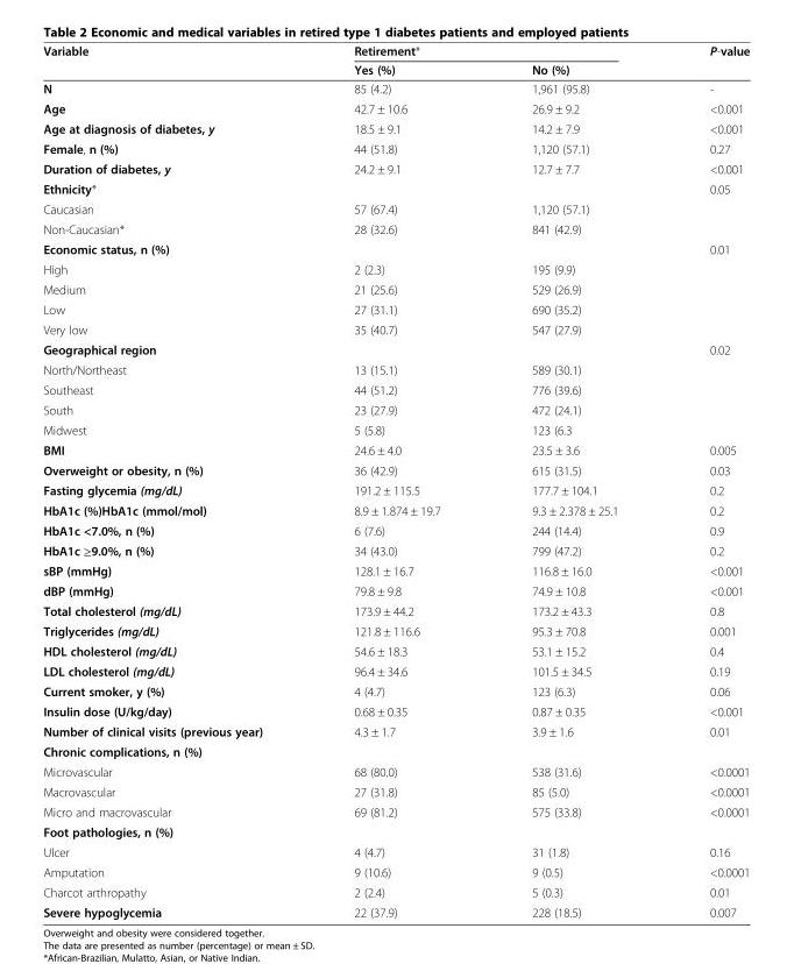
<table><thead><tr><td rowspan="2">Variable</td><td colspan="2">Retirement*</td><td rowspan="2">P-value</td></tr><tr><td>Yes (%)</td><td>No (%)</td></tr></thead><tbody><tr><td>N</td><td>85 (4.2)</td><td>1,961 (95.8)</td><td>-</td></tr><tr><td>Age</td><td>42.7 ± 10.6</td><td>26.9 ± 9.2</td><td>&lt;0.001</td></tr><tr><td>Age at diagnosis of diabetes, y</td><td>18.5 ± 9.1</td><td>14.2 ± 7.9</td><td>&lt;0.001</td></tr><tr><td>Female, n (%)</td><td>44 (51.8)</td><td>1,120 (57.1)</td><td>0.27</td></tr><tr><td>Duration of diabetes, y</td><td>24.2 ± 9.1</td><td>12.7 ± 7.7</td><td>&lt;0.001</td></tr><tr><td>Ethnicity*</td><td></td><td></td><td>0.05</td></tr><tr><td>Caucasian</td><td>57 (67.4)</td><td>1,120 (57.1)</td><td></td></tr><tr><td>Non-Caucasian*</td><td>28 (32.6)</td><td>841 (42.9)</td><td></td></tr><tr><td>Economic status, n (%)</td><td></td><td></td><td>0.01</td></tr><tr><td>High</td><td>2 (2.3)</td><td>195 (9.9)</td><td></td></tr><tr><td>Medium</td><td>21 (25.6)</td><td>529 (26.9)</td><td></td></tr><tr><td>Low</td><td>27 (31.1)</td><td>690 (35.2)</td><td></td></tr><tr><td>Very low</td><td>35 (40.7)</td><td>547 (27.9)</td><td></td></tr><tr><td>Geographical region</td><td></td><td></td><td>0.02</td></tr><tr><td>North/Northeast</td><td>13 (15.1)</td><td>589 (30.1)</td><td></td></tr><tr><td>Southeast</td><td>44 (51.2)</td><td>776 (39.6)</td><td></td></tr><tr><td>South</td><td>23 (27.9)</td><td>472 (24.1)</td><td></td></tr><tr><td>Midwest</td><td>5 (5.8)</td><td>123 (6.3</td><td></td></tr><tr><td>BMI</td><td>24.6 ± 4.0</td><td>23.5 ± 3.6</td><td>0.005</td></tr><tr><td>Overweight or obesity, n (%)</td><td>36 (42.9)</td><td>615 (31.5)</td><td>0.03</td></tr><tr><td>Fasting glycemia (mg/dL)</td><td>191.2 ± 115.5</td><td>177.7 ± 104.1</td><td>0.2</td></tr><tr><td>HbA1c (%)HbA1c (mmol/mol)</td><td>8.9 ± 1.874 ± 19.7</td><td>9.3 ± 2.378 ± 25.1</td><td>0.2</td></tr><tr><td>HbA1c &lt;7.0%, n (%)</td><td>6 (7.6)</td><td>244 (14.4)</td><td>0.9</td></tr><tr><td>HbA1c ≥9.0%, n (%)</td><td>34 (43.0)</td><td>799 (47.2)</td><td>0.2</td></tr><tr><td>sBP (mmHg)</td><td>128.1 ± 16.7</td><td>116.8 ± 16.0</td><td>&lt;0.001</td></tr><tr><td>dBP (mmHg)</td><td>79.8 ± 9.8</td><td>74.9 ± 10.8</td><td>&lt;0.001</td></tr><tr><td>Total cholesterol (mg/dL)</td><td>173.9 ± 44.2</td><td>173.2 ± 43.3</td><td>0.8</td></tr><tr><td>Triglycerides (mg/dL)</td><td>121.8 ± 116.6</td><td>95.3 ± 70.8</td><td>0.001</td></tr><tr><td>HDL cholesterol (mg/dL)</td><td>54.6 ± 18.3</td><td>53.1 ± 15.2</td><td>0.4</td></tr><tr><td>LDL cholesterol (mg/dL)</td><td>96.4 ± 34.6</td><td>101.5 ± 34.5</td><td>0.19</td></tr><tr><td>Current smoker, y (%)</td><td>4 (4.7)</td><td>123 (6.3)</td><td>0.06</td></tr><tr><td>Insulin dose (U/kg/day)</td><td>0.68 ± 0.35</td><td>0.87 ± 0.35</td><td>&lt;0.001</td></tr><tr><td>Number of clinical visits (previous year)</td><td>4.3 ± 1.7</td><td>3.9 ± 1.6</td><td>0.01</td></tr><tr><td colspan="4">Chronic complications, n (%)</td></tr><tr><td>Microvascular</td><td>68 (80.0)</td><td>538 (31.6)</td><td>&lt;0.0001</td></tr><tr><td>Macrovascular</td><td>27 (31.8)</td><td>85 (5.0)</td><td>&lt;0.0001</td></tr><tr><td>Micro and macrovascular</td><td>69 (81.2)</td><td>575 (33.8)</td><td>&lt;0.0001</td></tr><tr><td colspan="4">Foot pathologies, n (%)</td></tr><tr><td>Ulcer</td><td>4 (4.7)</td><td>31 (1.8)</td><td>0.16</td></tr><tr><td>Amputation</td><td>9 (10.6)</td><td>9 (0.5)</td><td>&lt;0.0001</td></tr><tr><td>Charcot arthropathy</td><td>2 (2.4)</td><td>5 (0.3)</td><td>0.01</td></tr><tr><td>Severe hypoglycemia</td><td>22 (37.9)</td><td>228 (18.5)</td><td>0.007</td></tr></tbody></table>